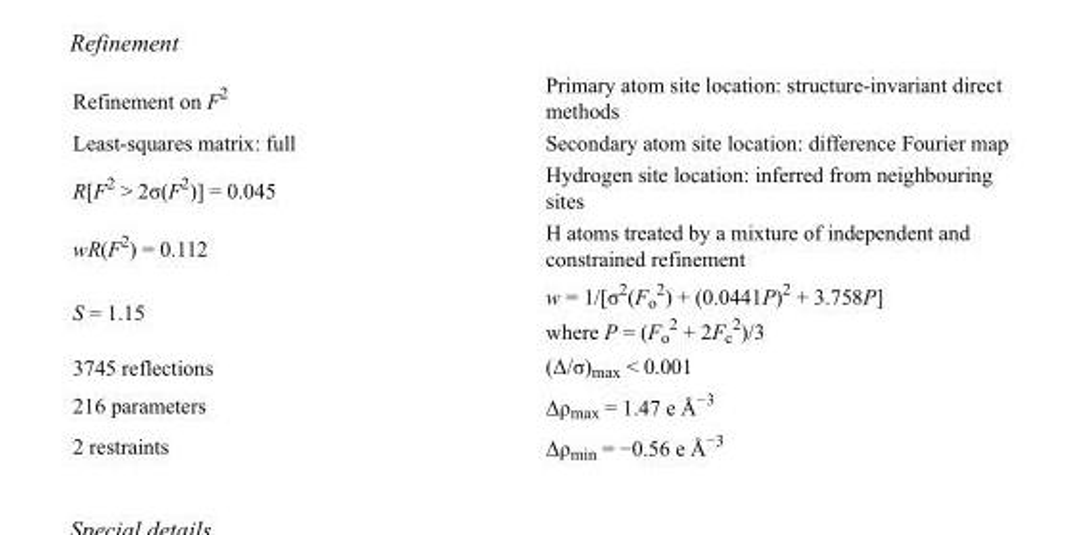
<table><tbody><tr><td>Refinement on F<sup>2</sup></td><td>Primary atom site location: structure-invariant direct methods</td></tr><tr><td>Least-squares matrix: full</td><td>Secondary atom site location: difference Fourier map</td></tr><tr><td>R[F<sup>2</sup> &gt; 2σ(F<sup>2</sup>)] = 0.045</td><td>Hydrogen site location: inferred from neighbouring sites</td></tr><tr><td>wR(F<sup>2</sup>) = 0.112</td><td>H atoms treated by a mixture of independent and constrained refinement</td></tr><tr><td>S = 1.15</td><td>w = 1/[σ<sup>2</sup>(F<sub>o</sub> <sup>2</sup>) + (0.0441P)<sup>2</sup> + 3.758P] where P = (F<sub>o</sub> <sup>2</sup> + 2F<sub>c</sub> <sup>2</sup>)/3</td></tr><tr><td>3745 reflections</td><td>(Δ/σ)<sub>max</sub> &lt; 0.001</td></tr><tr><td>216 parameters</td><td>Δρ<sub>max</sub> = 1.47 e Å<sup>−3</sup></td></tr><tr><td>2 restraints</td><td>Δρ<sub>min</sub> = −0.56 e Å<sup>−3</sup></td></tr></tbody></table>